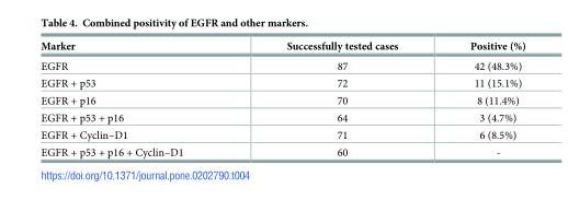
<table><thead><tr><td>Marker</td><td>Successfully tested cases</td><td>Positive (%)</td></tr></thead><tbody><tr><td>EGFR</td><td>87</td><td>42 (48.3%)</td></tr><tr><td>EGFR + p53</td><td>72</td><td>11 (15.1%)</td></tr><tr><td>EGFR + p16</td><td>70</td><td>8 (11.4%)</td></tr><tr><td>EGFR + p53 + p16</td><td>64</td><td>3 (4.7%)</td></tr><tr><td>EGFR + Cyclin–D1</td><td>71</td><td>6 (8.5%)</td></tr><tr><td>EGFR + p53 + p16 + Cyclin–D1</td><td>60</td><td>-</td></tr></tbody></table>